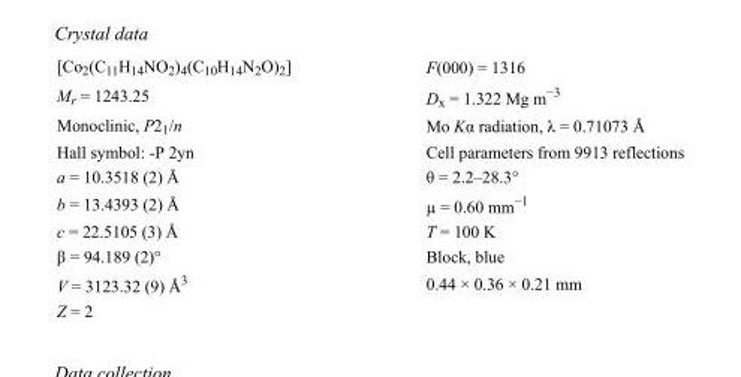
<table><tbody><tr><td>[Co<sub>2</sub>(C<sub>11</sub>H<sub>14</sub>NO<sub>2</sub>)<sub>4</sub>(C<sub>10</sub>H<sub>14</sub>N<sub>2</sub>O)<sub>2</sub>]</td><td>F(000) = 1316</td></tr><tr><td>M<sub>r</sub> = 1243.25</td><td>D<sub>x</sub> = 1.322 Mg m<sup>−3</sup></td></tr><tr><td>Monoclinic, P2<sub>1</sub>/n</td><td>Mo Kα radiation, λ = 0.71073 Å</td></tr><tr><td>Hall symbol: -P 2yn</td><td>Cell parameters from 9913 reflections</td></tr><tr><td>a = 10.3518 (2) Å</td><td>θ = 2.2–28.3°</td></tr><tr><td>b = 13.4393 (2) Å</td><td>µ = 0.60 mm<sup>−1</sup></td></tr><tr><td>c = 22.5105 (3) Å</td><td>T = 100 K</td></tr><tr><td>β = 94.189 (2)°</td><td>Block, blue</td></tr><tr><td>V = 3123.32 (9) Å<sup>3</sup></td><td>0.44 × 0.36 × 0.21 mm</td></tr><tr><td>Z = 2</td><td></td></tr></tbody></table>